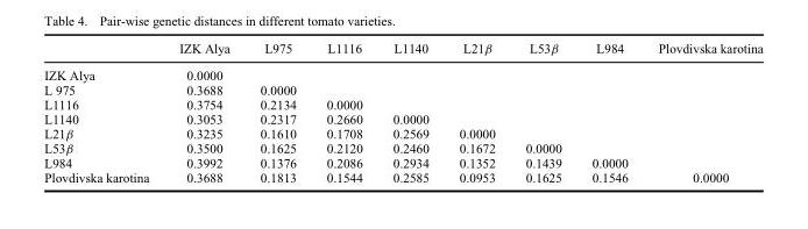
<table><thead><tr><td></td><td>IZK Alya</td><td>L975</td><td>L1116</td><td>L1140</td><td>L21β</td><td>L53β</td><td>L984</td><td>Plovdivska karotina</td></tr></thead><tbody><tr><td>IZK Alya</td><td>0.0000</td><td></td><td></td><td></td><td></td><td></td><td></td><td></td></tr><tr><td>L 975</td><td>0.3688</td><td>0.0000</td><td></td><td></td><td></td><td></td><td></td><td></td></tr><tr><td>L1116</td><td>0.3754</td><td>0.2134</td><td>0.0000</td><td></td><td></td><td></td><td></td><td></td></tr><tr><td>L1140</td><td>0.3053</td><td>0.2317</td><td>0.2660</td><td>0.0000</td><td></td><td></td><td></td><td></td></tr><tr><td>L21β</td><td>0.3235</td><td>0.1610</td><td>0.1708</td><td>0.2569</td><td>0.0000</td><td></td><td></td><td></td></tr><tr><td>L53β</td><td>0.3500</td><td>0.1625</td><td>0.2120</td><td>0.2460</td><td>0.1672</td><td>0.0000</td><td></td><td></td></tr><tr><td>L984</td><td>0.3992</td><td>0.1376</td><td>0.2086</td><td>0.2934</td><td>0.1352</td><td>0.1439</td><td>0.0000</td><td></td></tr><tr><td>Plovdivska karotina</td><td>0.3688</td><td>0.1813</td><td>0.1544</td><td>0.2585</td><td>0.0953</td><td>0.1625</td><td>0.1546</td><td>0.0000</td></tr></tbody></table>